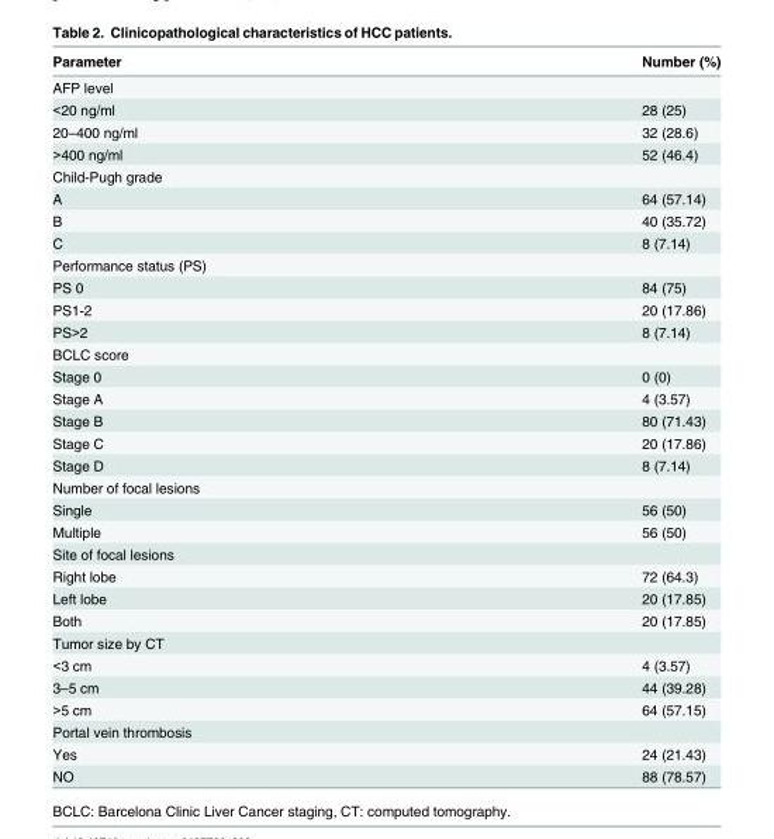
<table><thead><tr><td>Parameter</td><td>Number (%)</td></tr></thead><tbody><tr><td colspan="2">AFP level</td></tr><tr><td>&lt;20 ng/ml</td><td>28 (25)</td></tr><tr><td>20–400 ng/ml</td><td>32 (28.6)</td></tr><tr><td>&gt;400 ng/ml</td><td>52 (46.4)</td></tr><tr><td colspan="2">Child-Pugh grade</td></tr><tr><td>A</td><td>64 (57.14)</td></tr><tr><td>B</td><td>40 (35.72)</td></tr><tr><td>C</td><td>8 (7.14)</td></tr><tr><td colspan="2">Performance status (PS)</td></tr><tr><td>PS 0</td><td>84 (75)</td></tr><tr><td>PS1-2</td><td>20 (17.86)</td></tr><tr><td>PS&gt;2</td><td>8 (7.14)</td></tr><tr><td colspan="2">BCLC score</td></tr><tr><td>Stage 0</td><td>0 (0)</td></tr><tr><td>Stage A</td><td>4 (3.57)</td></tr><tr><td>Stage B</td><td>80 (71.43)</td></tr><tr><td>Stage C</td><td>20 (17.86)</td></tr><tr><td>Stage D</td><td>8 (7.14)</td></tr><tr><td colspan="2">Number of focal lesions</td></tr><tr><td>Single</td><td>56 (50)</td></tr><tr><td>Multiple</td><td>56 (50)</td></tr><tr><td colspan="2">Site of focal lesions</td></tr><tr><td>Right lobe</td><td>72 (64.3)</td></tr><tr><td>Left lobe</td><td>20 (17.85)</td></tr><tr><td>Both</td><td>20 (17.85)</td></tr><tr><td colspan="2">Tumor size by CT</td></tr><tr><td>&lt;3 cm</td><td>4 (3.57)</td></tr><tr><td>3–5 cm</td><td>44 (39.28)</td></tr><tr><td>&gt;5 cm</td><td>64 (57.15)</td></tr><tr><td colspan="2">Portal vein thrombosis</td></tr><tr><td>Yes</td><td>24 (21.43)</td></tr><tr><td>NO</td><td>88 (78.57)</td></tr></tbody></table>